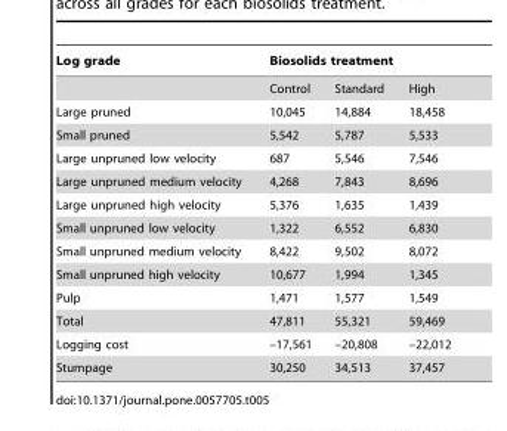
<table><thead><tr><td rowspan="2">Log grade</td><td colspan="3">Biosolids treatment</td></tr><tr><td>Control</td><td>Standard</td><td>High</td></tr></thead><tbody><tr><td>Large pruned</td><td>10,045</td><td>14,884</td><td>18,458</td></tr><tr><td>Small pruned</td><td>5,542</td><td>5,787</td><td>5,533</td></tr><tr><td>Large unpruned low velocity</td><td>687</td><td>5,546</td><td>7,546</td></tr><tr><td>Large unpruned medium velocity</td><td>4,268</td><td>7,843</td><td>8,696</td></tr><tr><td>Large unpruned high velocity</td><td>5,376</td><td>1,635</td><td>1,439</td></tr><tr><td>Small unpruned low velocity</td><td>1,322</td><td>6,552</td><td>6,830</td></tr><tr><td>Small unpruned medium velocity</td><td>8,422</td><td>9,502</td><td>8,072</td></tr><tr><td>Small unpruned high velocity</td><td>10,677</td><td>1,994</td><td>1,345</td></tr><tr><td>Pulp</td><td>1,471</td><td>1,577</td><td>1,549</td></tr><tr><td>Total</td><td>47,811</td><td>55,321</td><td>59,469</td></tr><tr><td>Logging cost</td><td>–17,561</td><td>–20,808</td><td>–22,012</td></tr><tr><td>Stumpage</td><td>30,250</td><td>34,513</td><td>37,457</td></tr></tbody></table>